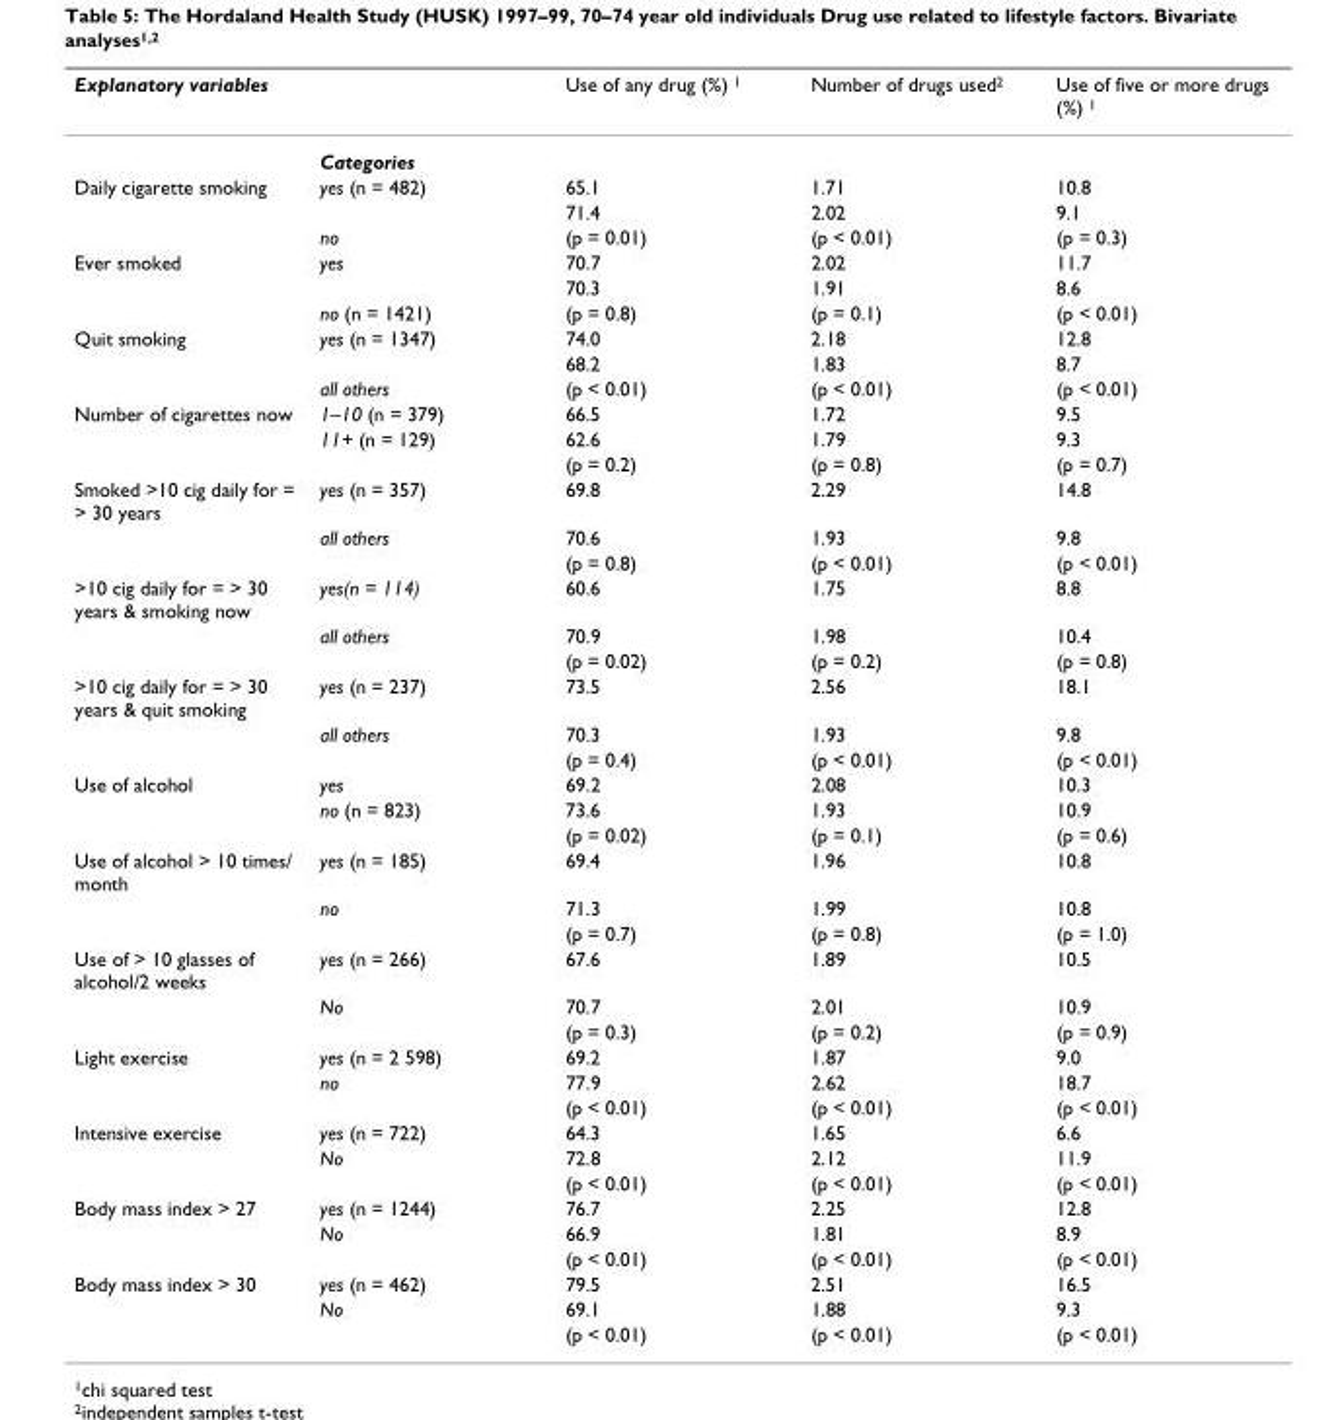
<table><thead><tr><td colspan="2">Explanatory variables</td><td rowspan="2">Use of any drug (%) 1</td><td rowspan="2">Number of drugs used2</td><td rowspan="2">Use of five or more drugs (%) 1</td></tr><tr><td></td><td>Categories</td></tr></thead><tbody><tr><td rowspan="3">Daily cigarette smoking</td><td>yes (n = 482)</td><td>65.1</td><td>1.71</td><td>10.8</td></tr><tr><td></td><td>71.4</td><td>2.02</td><td>9.1</td></tr><tr><td>no</td><td>(p = 0.01)</td><td>(p &lt; 0.01)</td><td>(p = 0.3)</td></tr><tr><td rowspan="3">Ever smoked</td><td>yes</td><td>70.7</td><td>2.02</td><td>11.7</td></tr><tr><td></td><td>70.3</td><td>1.91</td><td>8.6</td></tr><tr><td>no (n = 1421)</td><td>(p = 0.8)</td><td>(p = 0.1)</td><td>(p &lt; 0.01)</td></tr><tr><td rowspan="3">Quit smoking</td><td>yes (n = 1347)</td><td>74.0</td><td>2.18</td><td>12.8</td></tr><tr><td></td><td>68.2</td><td>1.83</td><td>8.7</td></tr><tr><td>all others</td><td>(p &lt; 0.01)</td><td>(p &lt; 0.01)</td><td>(p &lt; 0.01)</td></tr><tr><td rowspan="3">Number of cigarettes now</td><td>1–10 (n = 379)</td><td>66.5</td><td>1.72</td><td>9.5</td></tr><tr><td>11+ (n = 129)</td><td>62.6</td><td>1.79</td><td>9.3</td></tr><tr><td></td><td>(p = 0.2)</td><td>(p = 0.8)</td><td>(p = 0.7)</td></tr><tr><td rowspan="3">Smoked &gt;10 cig daily for = &gt; 30 years</td><td>yes (n = 357)</td><td>69.8</td><td>2.29</td><td>14.8</td></tr><tr><td>all others</td><td>70.6</td><td>1.93</td><td>9.8</td></tr><tr><td></td><td>(p = 0.8)</td><td>(p &lt; 0.01)</td><td>(p &lt; 0.01)</td></tr><tr><td rowspan="3">&gt;10 cig daily for = &gt; 30 years &amp; smoking now</td><td>yes(n = 114)</td><td>60.6</td><td>1.75</td><td>8.8</td></tr><tr><td>all others</td><td>70.9</td><td>1.98</td><td>10.4</td></tr><tr><td></td><td>(p = 0.02)</td><td>(p = 0.2)</td><td>(p = 0.8)</td></tr><tr><td rowspan="3">&gt;10 cig daily for = &gt; 30 years &amp; quit smoking</td><td>yes (n = 237)</td><td>73.5</td><td>2.56</td><td>18.1</td></tr><tr><td>all others</td><td>70.3</td><td>1.93</td><td>9.8</td></tr><tr><td></td><td>(p = 0.4)</td><td>(p &lt; 0.01)</td><td>(p &lt; 0.01)</td></tr><tr><td rowspan="3">Use of alcohol</td><td>yes</td><td>69.2</td><td>2.08</td><td>10.3</td></tr><tr><td>no (n = 823)</td><td>73.6</td><td>1.93</td><td>10.9</td></tr><tr><td></td><td>(p = 0.02)</td><td>(p = 0.1)</td><td>(p = 0.6)</td></tr><tr><td rowspan="3">Use of alcohol &gt; 10 times/ month</td><td>yes (n = 185)</td><td>69.4</td><td>1.96</td><td>10.8</td></tr><tr><td>no</td><td>71.3</td><td>1.99</td><td>10.8</td></tr><tr><td></td><td>(p = 0.7)</td><td>(p = 0.8)</td><td>(p = 1.0)</td></tr><tr><td rowspan="3">Use of &gt; 10 glasses of alcohol/2 weeks</td><td>yes (n = 266)</td><td>67.6</td><td>1.89</td><td>10.5</td></tr><tr><td>No</td><td>70.7</td><td>2.01</td><td>10.9</td></tr><tr><td></td><td>(p = 0.3)</td><td>(p = 0.2)</td><td>(p = 0.9)</td></tr><tr><td rowspan="3">Light exercise</td><td>yes (n = 2 598)</td><td>69.2</td><td>1.87</td><td>9.0</td></tr><tr><td>no</td><td>77.9</td><td>2.62</td><td>18.7</td></tr><tr><td></td><td>(p &lt; 0.01)</td><td>(p &lt; 0.01)</td><td>(p &lt; 0.01)</td></tr><tr><td rowspan="3">Intensive exercise</td><td>yes (n = 722)</td><td>64.3</td><td>1.65</td><td>6.6</td></tr><tr><td>No</td><td>72.8</td><td>2.12</td><td>11.9</td></tr><tr><td></td><td>(p &lt; 0.01)</td><td>(p &lt; 0.01)</td><td>(p &lt; 0.01)</td></tr><tr><td rowspan="3">Body mass index &gt; 27</td><td>yes (n = 1244)</td><td>76.7</td><td>2.25</td><td>12.8</td></tr><tr><td>No</td><td>66.9</td><td>1.81</td><td>8.9</td></tr><tr><td></td><td>(p &lt; 0.01)</td><td>(p &lt; 0.01)</td><td>(p &lt; 0.01)</td></tr><tr><td rowspan="3">Body mass index &gt; 30</td><td>yes (n = 462)</td><td>79.5</td><td>2.51</td><td>16.5</td></tr><tr><td>No</td><td>69.1</td><td>1.88</td><td>9.3</td></tr><tr><td></td><td>(p &lt; 0.01)</td><td>(p &lt; 0.01)</td><td>(p &lt; 0.01)</td></tr></tbody></table>